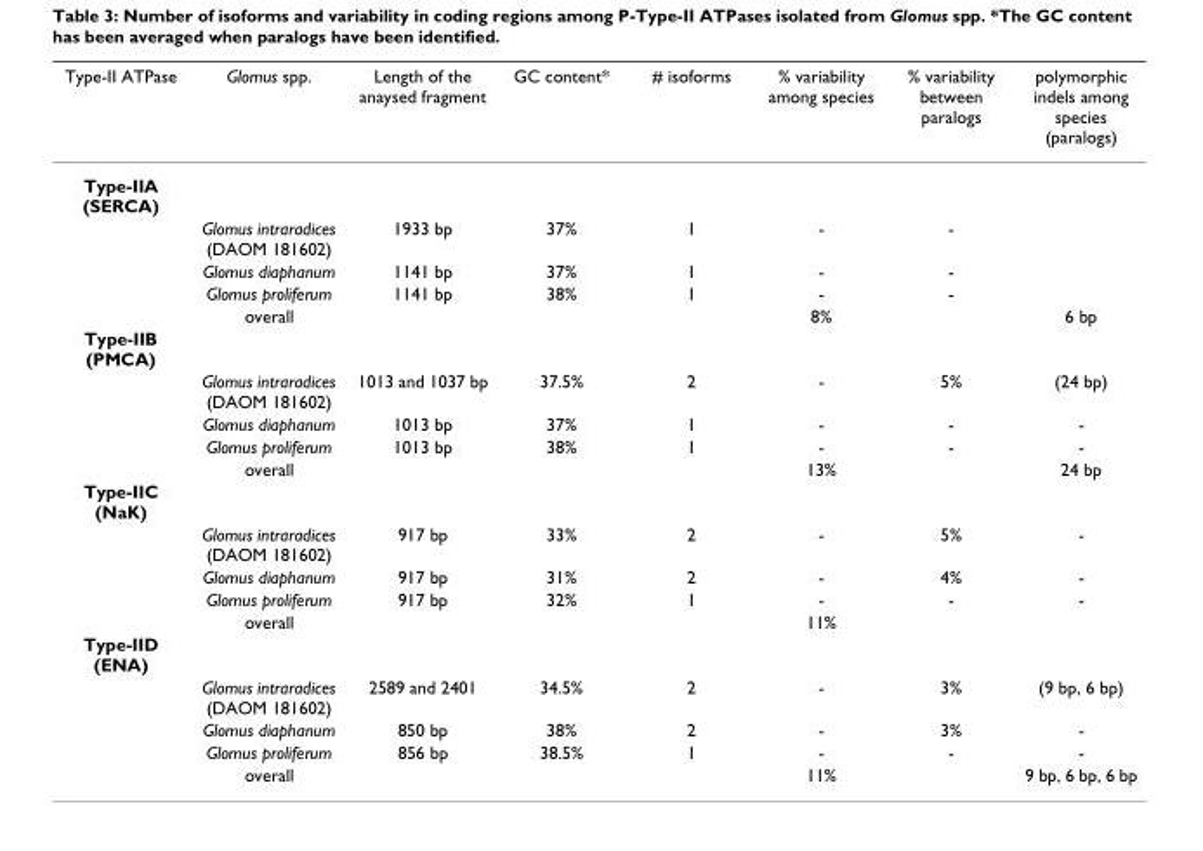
<table><thead><tr><td>Type-II ATPase</td><td>Glomus spp.</td><td>Length of the anaysed fragment</td><td>GC content*</td><td># isoforms</td><td>% variability among species</td><td>% variability between paralogs</td><td>polymorphic indels among species (paralogs)</td></tr></thead><tbody><tr><td colspan="8">Type-IIA (SERCA)</td></tr><tr><td></td><td>Glomus intraradices (DAOM 181602)</td><td>1933 bp</td><td>37%</td><td>1</td><td>-</td><td>-</td><td></td></tr><tr><td></td><td>Glomus diaphanum</td><td>1141 bp</td><td>37%</td><td>1</td><td>-</td><td>-</td><td></td></tr><tr><td></td><td>Glomus proliferum</td><td>1141 bp</td><td>38%</td><td>1</td><td>-</td><td>-</td><td></td></tr><tr><td></td><td>overall</td><td></td><td></td><td></td><td>8%</td><td></td><td>6 bp</td></tr><tr><td colspan="8">Type-IIB (PMCA)</td></tr><tr><td></td><td>Glomus intraradices (DAOM 181602)</td><td>1013 and 1037 bp</td><td>37.5%</td><td>2</td><td>-</td><td>5%</td><td>(24 bp)</td></tr><tr><td></td><td>Glomus diaphanum</td><td>1013 bp</td><td>37%</td><td>1</td><td>-</td><td>-</td><td>-</td></tr><tr><td></td><td>Glomus proliferum</td><td>1013 bp</td><td>38%</td><td>1</td><td>-</td><td>-</td><td>-</td></tr><tr><td></td><td>overall</td><td></td><td></td><td></td><td>13%</td><td></td><td>24 bp</td></tr><tr><td colspan="8">Type-IIC (NaK)</td></tr><tr><td></td><td>Glomus intraradices (DAOM 181602)</td><td>917 bp</td><td>33%</td><td>2</td><td>-</td><td>5%</td><td>-</td></tr><tr><td></td><td>Glomus diaphanum</td><td>917 bp</td><td>31%</td><td>2</td><td>-</td><td>4%</td><td>-</td></tr><tr><td></td><td>Glomus proliferum</td><td>917 bp</td><td>32%</td><td>1</td><td>-</td><td>-</td><td>-</td></tr><tr><td></td><td>overall</td><td></td><td></td><td></td><td>11%</td><td></td><td></td></tr><tr><td colspan="8">Type-IID (ENA)</td></tr><tr><td></td><td>Glomus intraradices (DAOM 181602)</td><td>2589 and 2401</td><td>34.5%</td><td>2</td><td>-</td><td>3%</td><td>(9 bp, 6 bp)</td></tr><tr><td></td><td>Glomus diaphanum</td><td>850 bp</td><td>38%</td><td>2</td><td>-</td><td>3%</td><td>-</td></tr><tr><td></td><td>Glomus proliferum</td><td>856 bp</td><td>38.5%</td><td>1</td><td>-</td><td>-</td><td>-</td></tr><tr><td></td><td>overall</td><td></td><td></td><td></td><td>11%</td><td></td><td>9 bp, 6 bp, 6 bp</td></tr></tbody></table>